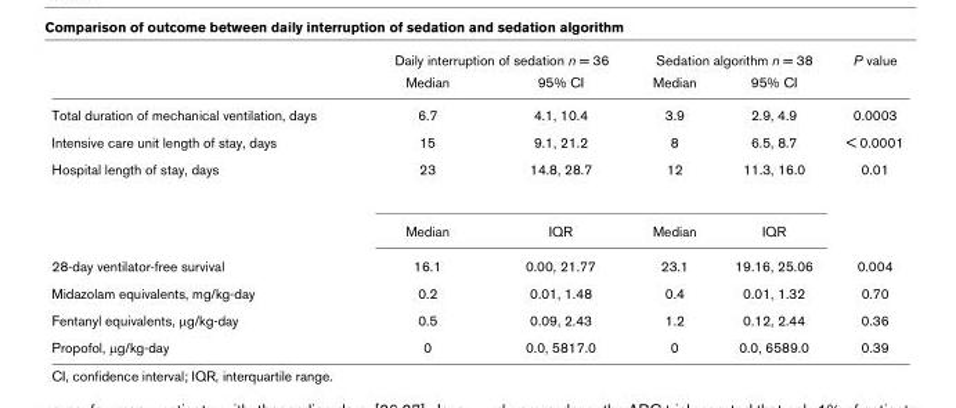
<table><thead><tr><td rowspan="2"></td><td colspan="2">Daily interruption of sedation n = 36</td><td colspan="2">Sedation algorithm n = 38</td><td rowspan="2">P value</td></tr><tr><td>Median</td><td>95% CI</td><td>Median</td><td>95% CI</td></tr></thead><tbody><tr><td>Total duration of mechanical ventilation, days</td><td>6.7</td><td>4.1, 10.4</td><td>3.9</td><td>2.9, 4.9</td><td>0.0003</td></tr><tr><td>Intensive care unit length of stay, days</td><td>15</td><td>9.1, 21.2</td><td>8</td><td>6.5, 8.7</td><td>&lt; 0.0001</td></tr><tr><td rowspan="2">Hospital length of stay, days</td><td>23</td><td>14.8, 28.7</td><td>12</td><td>11.3, 16.0</td><td>0.01</td></tr><tr><td>Median</td><td>IQR</td><td>Median</td><td>IQR</td><td></td></tr><tr><td>28-day ventilator-free survival</td><td>16.1</td><td>0.00, 21.77</td><td>23.1</td><td>19.16, 25.06</td><td>0.004</td></tr><tr><td>Midazolam equivalents, mg/kg-day</td><td>0.2</td><td>0.01, 1.48</td><td>0.4</td><td>0.01, 1.32</td><td>0.70</td></tr><tr><td>Fentanyl equivalents, μg/kg-day</td><td>0.5</td><td>0.09, 2.43</td><td>1.2</td><td>0.12, 2.44</td><td>0.36</td></tr><tr><td>Propofol, μg/kg-day</td><td>0</td><td>0.0, 5817.0</td><td>0</td><td>0.0, 6589.0</td><td>0.39</td></tr></tbody></table>